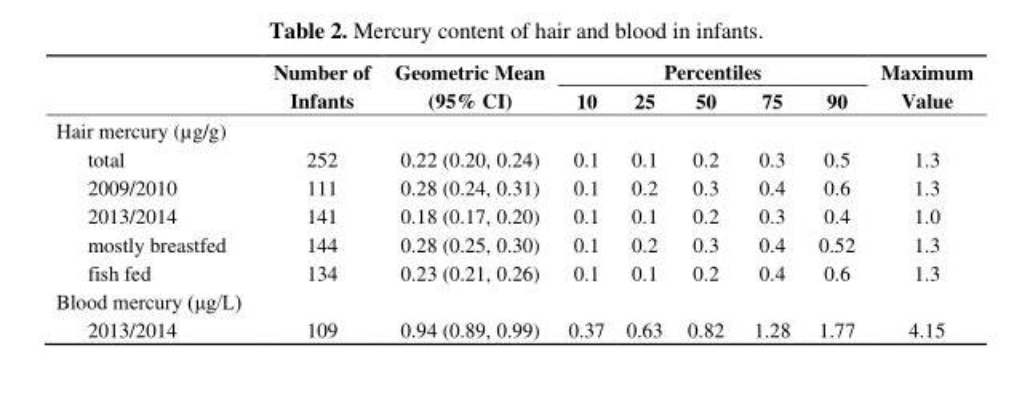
<table><thead><tr><td rowspan="2"></td><td rowspan="2">Number of Infants</td><td rowspan="2">Geometric Mean (95% CI)</td><td colspan="5">Percentiles</td><td rowspan="2">Maximum Value</td></tr><tr><td>10</td><td>25</td><td>50</td><td>75</td><td>90</td></tr></thead><tbody><tr><td colspan="9">Hair mercury (µg/g)</td></tr><tr><td>total</td><td>252</td><td>0.22 (0.20, 0.24)</td><td>0.1</td><td>0.1</td><td>0.2</td><td>0.3</td><td>0.5</td><td>1.3</td></tr><tr><td>2009/2010</td><td>111</td><td>0.28 (0.24, 0.31)</td><td>0.1</td><td>0.2</td><td>0.3</td><td>0.4</td><td>0.6</td><td>1.3</td></tr><tr><td>2013/2014</td><td>141</td><td>0.18 (0.17, 0.20)</td><td>0.1</td><td>0.1</td><td>0.2</td><td>0.3</td><td>0.4</td><td>1.0</td></tr><tr><td>mostly breastfed</td><td>144</td><td>0.28 (0.25, 0.30)</td><td>0.1</td><td>0.2</td><td>0.3</td><td>0.4</td><td>0.52</td><td>1.3</td></tr><tr><td>fish fed</td><td>134</td><td>0.23 (0.21, 0.26)</td><td>0.1</td><td>0.1</td><td>0.2</td><td>0.4</td><td>0.6</td><td>1.3</td></tr><tr><td colspan="9">Blood mercury (μg/L)</td></tr><tr><td>2013/2014</td><td>109</td><td>0.94 (0.89, 0.99)</td><td>0.37</td><td>0.63</td><td>0.82</td><td>1.28</td><td>1.77</td><td>4.15</td></tr></tbody></table>